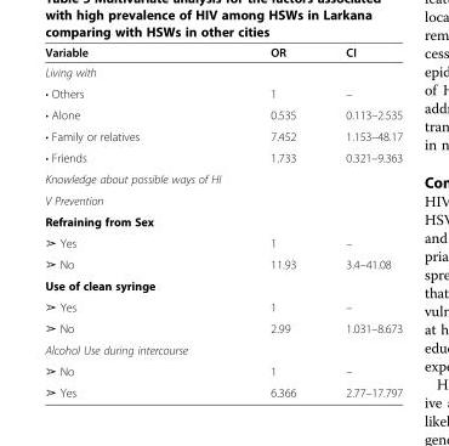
<table><thead><tr><td>Variable</td><td>OR</td><td>CI</td></tr></thead><tbody><tr><td colspan="3">Living with</td></tr><tr><td>• Others</td><td>1</td><td>–</td></tr><tr><td>• Alone</td><td>0.535</td><td>0.113–2.535</td></tr><tr><td>• Family or relatives</td><td>7.452</td><td>1.153–48.17</td></tr><tr><td>• Friends</td><td>1.733</td><td>0.321–9.363</td></tr><tr><td colspan="3">Knowledge about possible ways of HI</td></tr><tr><td colspan="3">V Prevention</td></tr><tr><td colspan="3">Refraining from Sex</td></tr><tr><td>➢ Yes</td><td>1</td><td>–</td></tr><tr><td>➢ No</td><td>11.93</td><td>3.4–41.08</td></tr><tr><td colspan="3">Use of clean syringe</td></tr><tr><td>➢ Yes</td><td>1</td><td>–</td></tr><tr><td>➢ No</td><td>2.99</td><td>1.031–8.673</td></tr><tr><td colspan="3">Alcohol Use during intercourse</td></tr><tr><td>➢ No</td><td>1</td><td>–</td></tr><tr><td>➢ Yes</td><td>6.366</td><td>2.77–17.797</td></tr></tbody></table>